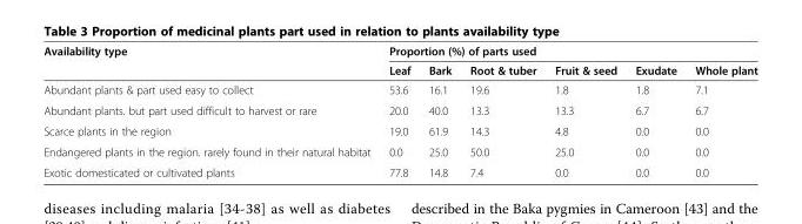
<table><thead><tr><td rowspan="2">Availability type</td><td colspan="6">Proportion (%) of parts used</td></tr><tr><td>Leaf</td><td>Bark</td><td>Root &amp; tuber</td><td>Fruit &amp; seed</td><td>Exudate</td><td>Whole plant</td></tr></thead><tbody><tr><td>Abundant plants &amp; part used easy to collect</td><td>53.6</td><td>16.1</td><td>19.6</td><td>1.8</td><td>1.8</td><td>7.1</td></tr><tr><td>Abundant plants. but part used difficult to harvest or rare</td><td>20.0</td><td>40.0</td><td>13.3</td><td>13.3</td><td>6.7</td><td>6.7</td></tr><tr><td>Scarce plants in the region</td><td>19.0</td><td>61.9</td><td>14.3</td><td>4.8</td><td>0.0</td><td>0.0</td></tr><tr><td>Endangered plants in the region. rarely found in their natural habitat</td><td>0.0</td><td>25.0</td><td>50.0</td><td>25.0</td><td>0.0</td><td>0.0</td></tr><tr><td>Exotic domesticated or cultivated plants</td><td>77.8</td><td>14.8</td><td>7.4</td><td>0.0</td><td>0.0</td><td>0.0</td></tr></tbody></table>